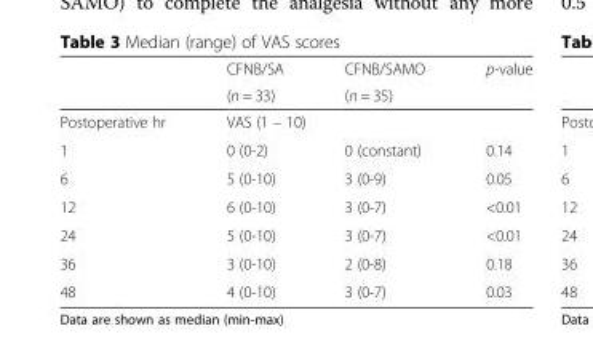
<table><thead><tr><td rowspan="2"></td><td rowspan="2">CFNB/SA (n = 33)</td><td rowspan="2">CFNB/SAMO (n = 35)</td><td rowspan="2">p-value</td></tr><tr></tr></thead><tbody><tr><td>Postoperative hr</td><td colspan="2">VAS (1 – 10)</td><td></td></tr><tr><td>1</td><td>0 (0-2)</td><td>0 (constant)</td><td>0.14</td></tr><tr><td>6</td><td>5 (0-10)</td><td>3 (0-9)</td><td>0.05</td></tr><tr><td>12</td><td>6 (0-10)</td><td>3 (0-7)</td><td>&lt;0.01</td></tr><tr><td>24</td><td>5 (0-10)</td><td>3 (0-7)</td><td>&lt;0.01</td></tr><tr><td>36</td><td>3 (0-10)</td><td>2 (0-8)</td><td>0.18</td></tr><tr><td>48</td><td>4 (0-10)</td><td>3 (0-7)</td><td>0.03</td></tr></tbody></table>